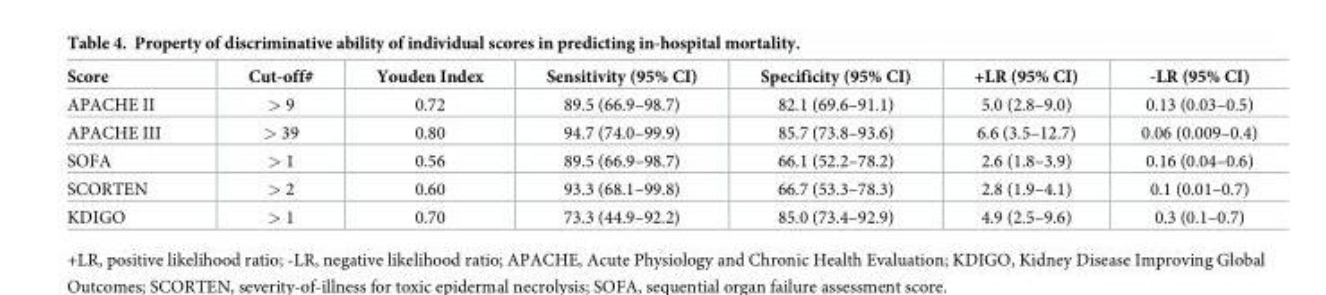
<table><thead><tr><td>Score</td><td>Cut-off#</td><td>Youden Index</td><td>Sensitivity (95% CI)</td><td>Specificity (95% CI)</td><td>+LR (95% CI)</td><td>-LR (95% CI)</td></tr></thead><tbody><tr><td>APACHE II</td><td>&gt; 9</td><td>0.72</td><td>89.5 (66.9–98.7)</td><td>82.1 (69.6–91.1)</td><td>5.0 (2.8–9.0)</td><td>0.13 (0.03–0.5)</td></tr><tr><td>APACHE III</td><td>&gt; 39</td><td>0.80</td><td>94.7 (74.0–99.9)</td><td>85.7 (73.8–93.6)</td><td>6.6 (3.5–12.7)</td><td>0.06 (0.009–0.4)</td></tr><tr><td>SOFA</td><td>&gt; 1</td><td>0.56</td><td>89.5 (66.9–98.7)</td><td>66.1 (52.2–78.2)</td><td>2.6 (1.8–3.9)</td><td>0.16 (0.04–0.6)</td></tr><tr><td>SCORTEN</td><td>&gt; 2</td><td>0.60</td><td>93.3 (68.1–99.8)</td><td>66.7 (53.3–78.3)</td><td>2.8 (1.9–4.1)</td><td>0.1 (0.01–0.7)</td></tr><tr><td>KDIGO</td><td>&gt; 1</td><td>0.70</td><td>73.3 (44.9–92.2)</td><td>85.0 (73.4–92.9)</td><td>4.9 (2.5–9.6)</td><td>0.3 (0.1–0.7)</td></tr></tbody></table>